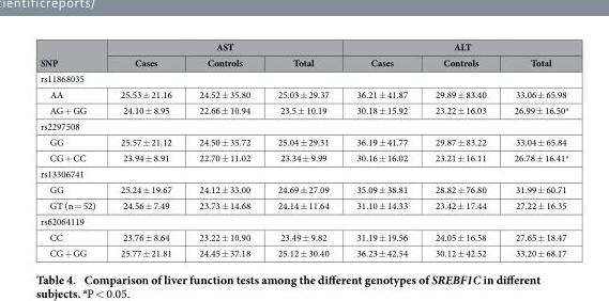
<table><thead><tr><td rowspan="2">SNP</td><td colspan="3">AST</td><td colspan="3">ALT</td></tr><tr><td>Cases</td><td>Controls</td><td>Total</td><td>Cases</td><td>Controls</td><td>Total</td></tr></thead><tbody><tr><td colspan="7">rs11868035</td></tr><tr><td>AA</td><td>25.53 ± 21.16</td><td>24.52 ± 35.80</td><td>25.03 ± 29.37</td><td>36.21 ± 41.87</td><td>29.89 ± 83.40</td><td>33.06 ± 65.98</td></tr><tr><td>AG + GG</td><td>24.10 ± 8.95</td><td>22.66 ± 10.94</td><td>23.5 ± 10.19</td><td>30.18 ± 15.92</td><td>23.22 ± 16.03</td><td>26.99 ± 16.50<sup>a</sup></td></tr><tr><td colspan="7">rs2297508</td></tr><tr><td>GG</td><td>25.57 ± 21.12</td><td>24.50 ± 35.72</td><td>25.04 ± 29.31</td><td>36.19 ± 41.77</td><td>29.87 ± 83.22</td><td>33.04 ± 65.84</td></tr><tr><td>CG + CC</td><td>23.94 ± 8.91</td><td>22.70 ± 11.02</td><td>23.34 ± 9.99</td><td>30.16 ± 16.02</td><td>23.21 ± 16.11</td><td>26.78 ± 16.41<sup>a</sup></td></tr><tr><td colspan="7">rs13306741</td></tr><tr><td>GG</td><td>25.24 ± 19.67</td><td>24.12 ± 33.00</td><td>24.69 ± 27.09</td><td>35.09 ± 38.81</td><td>28.82 ± 76.80</td><td>31.99 ± 60.71</td></tr><tr><td>GT (n = 52)</td><td>24.56 ± 7.49</td><td>23.73 ± 14.68</td><td>24.14 ± 11.64</td><td>31.10 ± 14.33</td><td>23.42 ± 17.44</td><td>27.22 ± 16.35</td></tr><tr><td colspan="7">rs62064119</td></tr><tr><td>CC</td><td>23.76 ± 8.64</td><td>23.22 ± 10.90</td><td>23.49 ± 9.82</td><td>31.19 ± 19.56</td><td>24.05 ± 16.58</td><td>27.65 ± 18.47</td></tr><tr><td>CG + GG</td><td>25.77 ± 21.81</td><td>24.45 ± 37.18</td><td>25.12 ± 30.40</td><td>36.23 ± 42.54</td><td>30.12 ± 42.52</td><td>33.20 ± 68.17</td></tr></tbody></table>